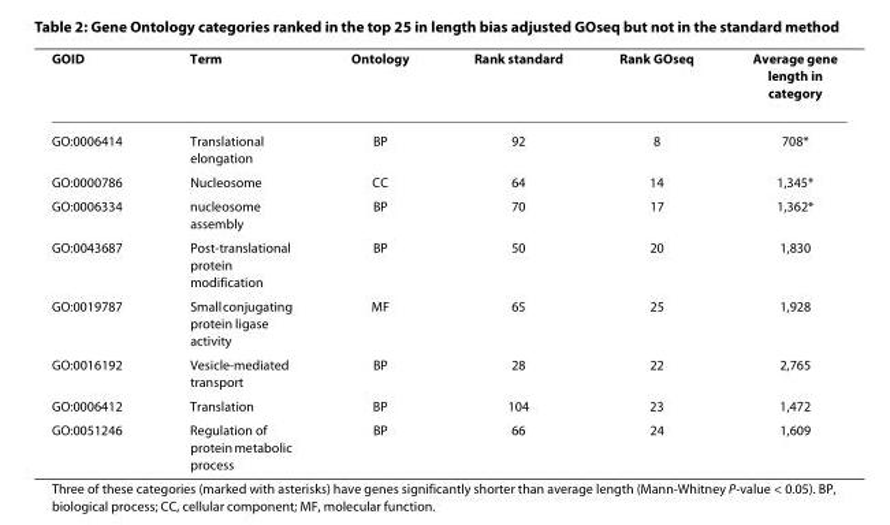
<table><thead><tr><td>GOID</td><td>Term</td><td>Ontology</td><td>Rank standard</td><td>Rank GOseq</td><td>Average gene length in category</td></tr></thead><tbody><tr><td>GO:0006414</td><td>Translational elongation</td><td>BP</td><td>92</td><td>8</td><td>708*</td></tr><tr><td>GO:0000786</td><td>Nucleosome</td><td>CC</td><td>64</td><td>14</td><td>1,345*</td></tr><tr><td>GO:0006334</td><td>nucleosome assembly</td><td>BP</td><td>70</td><td>17</td><td>1,362*</td></tr><tr><td>GO:0043687</td><td>Post-translational protein modification</td><td>BP</td><td>50</td><td>20</td><td>1,830</td></tr><tr><td>GO:0019787</td><td>Small conjugating protein ligase activity</td><td>MF</td><td>65</td><td>25</td><td>1,928</td></tr><tr><td>GO:0016192</td><td>Vesicle-mediated transport</td><td>BP</td><td>28</td><td>22</td><td>2,765</td></tr><tr><td>GO:0006412</td><td>Translation</td><td>BP</td><td>104</td><td>23</td><td>1,472</td></tr><tr><td>GO:0051246</td><td>Regulation of protein metabolic process</td><td>BP</td><td>66</td><td>24</td><td>1,609</td></tr></tbody></table>